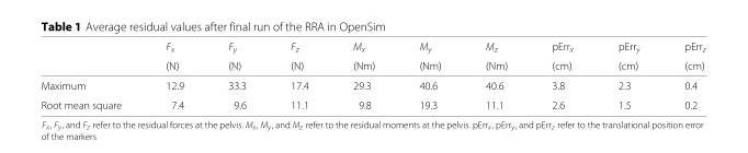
<table><thead><tr><td rowspan="2"></td><td rowspan="2">F<sub>x</sub> (N)</td><td rowspan="2">F<sub>y</sub> (N)</td><td rowspan="2">F<sub>z</sub> (N)</td><td rowspan="2">M<sub>x</sub> (Nm)</td><td rowspan="2">M<sub>y</sub> (Nm)</td><td rowspan="2">M<sub>z</sub> (Nm)</td><td rowspan="2">pErr<sub>x</sub> (cm)</td><td rowspan="2">pErr<sub>y</sub> (cm)</td><td rowspan="2">pErr<sub>z</sub> (cm)</td></tr><tr></tr></thead><tbody><tr><td>Maximum</td><td>12.9</td><td>33.3</td><td>17.4</td><td>29.3</td><td>40.6</td><td>40.6</td><td>3.8</td><td>2.3</td><td>0.4</td></tr><tr><td>Root mean square</td><td>7.4</td><td>9.6</td><td>11.1</td><td>9.8</td><td>19.3</td><td>11.1</td><td>2.6</td><td>1.5</td><td>0.2</td></tr></tbody></table>